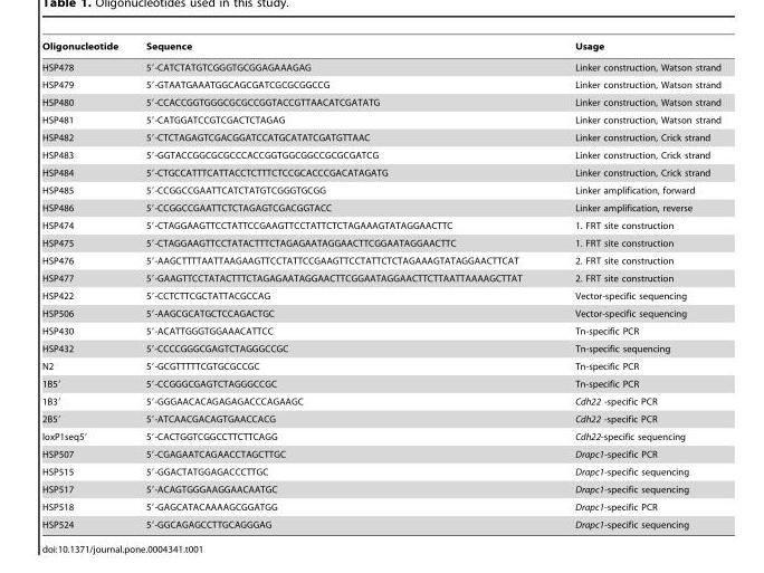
<table><thead><tr><td>Oligonucleotide</td><td>Sequence</td><td>Usage</td></tr></thead><tbody><tr><td>HSP478</td><td>5′-CATCTATGTCGGGTGCGGAGAAAGAG</td><td>Linker construction, Watson strand</td></tr><tr><td>HSP479</td><td>5′-GTAATGAAATGGCAGCGATCGCGCGGCCG</td><td>Linker construction, Watson strand</td></tr><tr><td>HSP480</td><td>5′-CCACCGGTGGGCGCGCCGGTACCGTTAACATCGATATG</td><td>Linker construction, Watson strand</td></tr><tr><td>HSP481</td><td>5′-CATGGATCCGTCGACTCTAGAG</td><td>Linker construction, Watson strand</td></tr><tr><td>HSP482</td><td>5′-CTCTAGAGTCGACGGATCCATGCATATCGATGTTAAC</td><td>Linker construction, Crick strand</td></tr><tr><td>HSP483</td><td>5′-GGTACCGGCGCGCCCACCGGTGGCGGCCGCGCGATCG</td><td>Linker construction, Crick strand</td></tr><tr><td>HSP484</td><td>5′-CTGCCATTTCATTACCTCTTTCTCCGCACCCGACATAGATG</td><td>Linker construction, Crick strand</td></tr><tr><td>HSP485</td><td>5′-CCGGCCGAATTCATCTATGTCGGGTGCGG</td><td>Linker amplification, forward</td></tr><tr><td>HSP486</td><td>5′-CCGGCCGAATTCTCTAGAGTCGACGGTACC</td><td>Linker amplification, reverse</td></tr><tr><td>HSP474</td><td>5′-CTAGGAAGTTCCTATTCCGAAGTTCCTATTCTCTAGAAAGTATAGGAACTTC</td><td>1. FRT site construction</td></tr><tr><td>HSP475</td><td>5′-CTAGGAAGTTCCTATACTTTCTAGAGAATAGGAACTTCGGAATAGGAACTTC</td><td>1. FRT site construction</td></tr><tr><td>HSP476</td><td>5′-AAGCTTTTAATTAAGAAGTTCCTATTCCGAAGTTCCTATTCTCTAGAAAGTATAGGAACTTCAT</td><td>2. FRT site construction</td></tr><tr><td>HSP477</td><td>5′-GAAGTTCCTATACTTTCTAGAGAATAGGAACTTCGGAATAGGAACTTCTTAATTAAAAGCTTAT</td><td>2. FRT site construction</td></tr><tr><td>HSP422</td><td>5′-CCTCTTCGCTATTACGCCAG</td><td>Vector-specific sequencing</td></tr><tr><td>HSP506</td><td>5′-AAGCGCATGCTCCAGACTGC</td><td>Vector-specific sequencing</td></tr><tr><td>HSP430</td><td>5′-ACATTGGGTGGAAACATTCC</td><td>Tn-specific PCR</td></tr><tr><td>HSP432</td><td>5′-CCCCGGGCGAGTCTAGGGCCGC</td><td>Tn-specific sequencing</td></tr><tr><td>N2</td><td>5′-GCGTTTTTCGTGCGCCGC</td><td>Tn-specific PCR</td></tr><tr><td>1B5′</td><td>5′-CCGGGCGAGTCTAGGGCCGC</td><td>Tn-specific PCR</td></tr><tr><td>1B3′</td><td>5′-GGGAACACAGAGAGACCCAGAAGC</td><td>Cdh22 -specific PCR</td></tr><tr><td>2B5′</td><td>5′-ATCAACGACAGTGAACCACG</td><td>Cdh22 -specific PCR</td></tr><tr><td>loxP1seq5′</td><td>5′-CACTGGTCGGCCTTCTTCAGG</td><td>Cdh22-specific sequencing</td></tr><tr><td>HSP507</td><td>5′-CGAGAATCAGAACCTAGCTTGC</td><td>Drapc1-specific PCR</td></tr><tr><td>HSP515</td><td>5′-GGACTATGGAGACCCTTGC</td><td>Drapc1-specific sequencing</td></tr><tr><td>HSP517</td><td>5′-ACAGTGGGAAGGAACAATGC</td><td>Drapc1-specific sequencing</td></tr><tr><td>HSP518</td><td>5′-GAGCATACAAAAGCGGATGG</td><td>Drapc1-specific PCR</td></tr><tr><td>HSP524</td><td>5′-GGCAGAGCCTTGCAGGGAG</td><td>Drapc1-specific sequencing</td></tr></tbody></table>